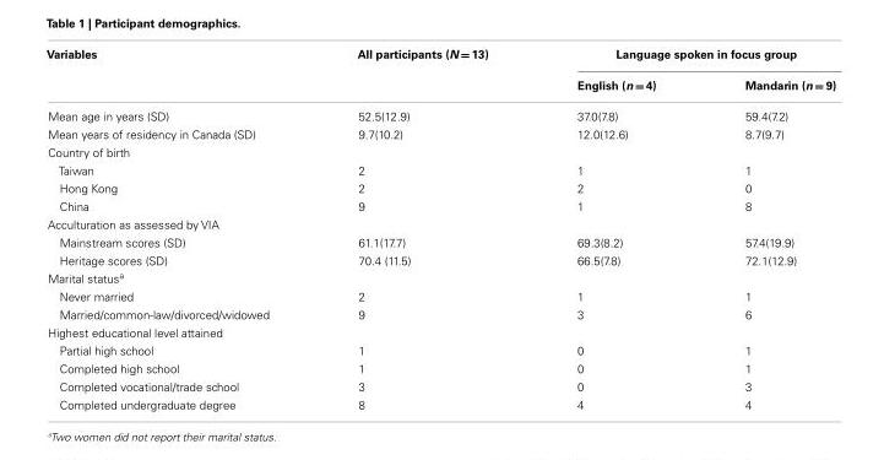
<table><thead><tr><td rowspan="2">Variables</td><td rowspan="2">All participants (N = 13)</td><td colspan="2">Language spoken in focus group</td></tr><tr><td>English (n = 4)</td><td>Mandarin (n = 9)</td></tr></thead><tbody><tr><td>Mean age in years (SD)</td><td>52.5(12.9)</td><td>37.0(7.8)</td><td>59.4(7.2)</td></tr><tr><td>Mean years of residency in Canada (SD)</td><td>9.7(10.2)</td><td>12.0(12.6)</td><td>8.7(9.7)</td></tr><tr><td colspan="4">Country of birth</td></tr><tr><td>Taiwan</td><td>2</td><td>1</td><td>1</td></tr><tr><td>Hong Kong</td><td>2</td><td>2</td><td>0</td></tr><tr><td>China</td><td>9</td><td>1</td><td>8</td></tr><tr><td colspan="4">Acculturation as assessed by VIA</td></tr><tr><td>Mainstream scores (SD)</td><td>61.1(17.7)</td><td>69.3(8.2)</td><td>57.4(19.9)</td></tr><tr><td>Heritage scores (SD)</td><td>70.4 (11.5)</td><td>66.5(7.8)</td><td>72.1(12.9)</td></tr><tr><td colspan="4">Marital status<sup>a</sup></td></tr><tr><td>Never married</td><td>2</td><td>1</td><td>1</td></tr><tr><td>Married/common-law/divorced/widowed</td><td>9</td><td>3</td><td>6</td></tr><tr><td colspan="4">Highest educational level attained</td></tr><tr><td>Partial high school</td><td>1</td><td>0</td><td>1</td></tr><tr><td>Completed high school</td><td>1</td><td>0</td><td>1</td></tr><tr><td>Completed vocational/trade school</td><td>3</td><td>0</td><td>3</td></tr><tr><td>Completed undergraduate degree</td><td>8</td><td>4</td><td>4</td></tr></tbody></table>